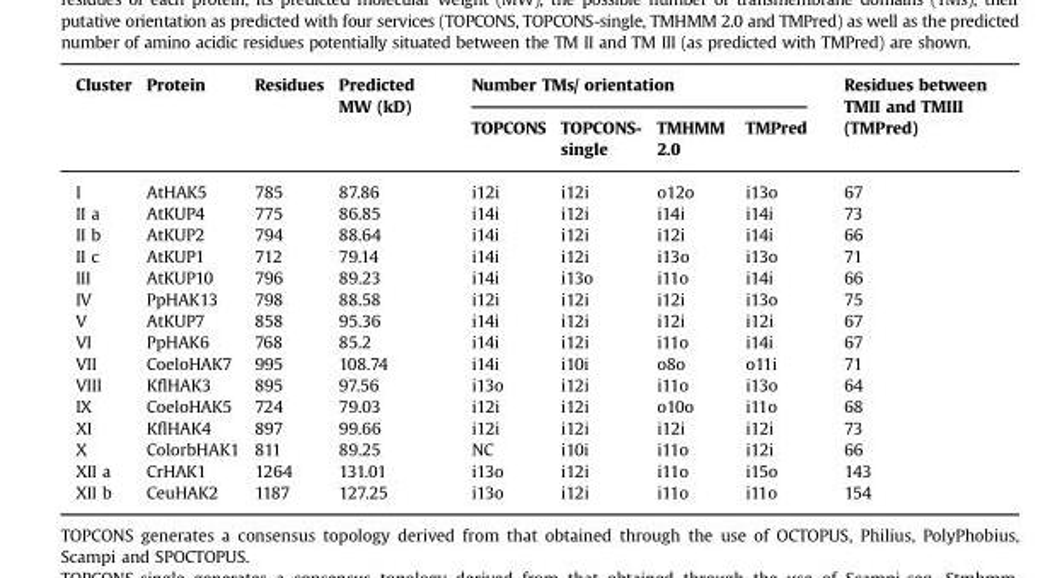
<table><thead><tr><td rowspan="2">Cluster</td><td rowspan="2">Protein</td><td rowspan="2">Residues</td><td rowspan="2">Predicted MW (kD)</td><td colspan="4">Number TMs/ orientation</td><td rowspan="2">Residues between TMII and TMIII (TMPred)</td></tr><tr><td>TOPCONS</td><td>TOPCONS- single</td><td>TMHMM 2.0</td><td>TMPred</td></tr></thead><tbody><tr><td>I</td><td>AtHAK5</td><td>785</td><td>87.86</td><td>i12i</td><td>i12i</td><td>o12o</td><td>i13o</td><td>67</td></tr><tr><td>II a</td><td>AtKUP4</td><td>775</td><td>86.85</td><td>i14i</td><td>i12i</td><td>i14i</td><td>i14i</td><td>73</td></tr><tr><td>II b</td><td>AtKUP2</td><td>794</td><td>88.64</td><td>i14i</td><td>i12i</td><td>i12i</td><td>i14i</td><td>66</td></tr><tr><td>II c</td><td>AtKUP1</td><td>712</td><td>79.14</td><td>i14i</td><td>i12i</td><td>i13o</td><td>i13o</td><td>71</td></tr><tr><td>III</td><td>AtKUP10</td><td>796</td><td>89.23</td><td>i14i</td><td>i13o</td><td>i11o</td><td>i14i</td><td>66</td></tr><tr><td>IV</td><td>PpHAK13</td><td>798</td><td>88.58</td><td>i12i</td><td>i12i</td><td>i12i</td><td>i13o</td><td>75</td></tr><tr><td>V</td><td>AtKUP7</td><td>858</td><td>95.36</td><td>i14i</td><td>i12i</td><td>i12i</td><td>i12i</td><td>67</td></tr><tr><td>VI</td><td>PpHAK6</td><td>768</td><td>85.2</td><td>i14i</td><td>i12i</td><td>i11o</td><td>i14i</td><td>67</td></tr><tr><td>VII</td><td>CoeloHAK7</td><td>995</td><td>108.74</td><td>i14i</td><td>i10i</td><td>o8o</td><td>o11i</td><td>71</td></tr><tr><td>VIII</td><td>KflHAK3</td><td>895</td><td>97.56</td><td>i13o</td><td>i12i</td><td>i11o</td><td>i13o</td><td>64</td></tr><tr><td>IX</td><td>CoeloHAK5</td><td>724</td><td>79.03</td><td>i12i</td><td>i12i</td><td>o10o</td><td>i11o</td><td>68</td></tr><tr><td>XI</td><td>KflHAK4</td><td>897</td><td>99.66</td><td>i12i</td><td>i12i</td><td>i12i</td><td>i12i</td><td>73</td></tr><tr><td>X</td><td>ColorbHAK1</td><td>811</td><td>89.25</td><td>NC</td><td>i10i</td><td>i11o</td><td>i12i</td><td>66</td></tr><tr><td>XII a</td><td>CrHAK1</td><td>1264</td><td>131.01</td><td>i13o</td><td>i12i</td><td>i11o</td><td>i15o</td><td>143</td></tr><tr><td>XII b</td><td>CeuHAK2</td><td>1187</td><td>127.25</td><td>i13o</td><td>i12i</td><td>i11o</td><td>i11o</td><td>154</td></tr></tbody></table>